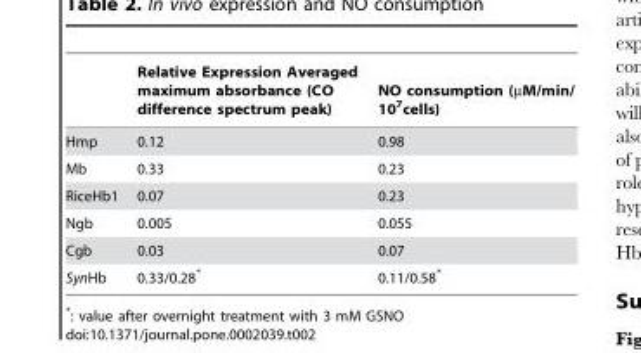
<table><thead><tr><td></td><td>Relative Expression Averaged maximum absorbance (CO difference spectrum peak)</td><td>NO consumption (µM/min/ 10<sup>7</sup>cells)</td></tr></thead><tbody><tr><td>Hmp</td><td>0.12</td><td>0.98</td></tr><tr><td>Mb</td><td>0.33</td><td>0.23</td></tr><tr><td>RiceHb1</td><td>0.07</td><td>0.23</td></tr><tr><td>Ngb</td><td>0.005</td><td>0.055</td></tr><tr><td>Cgb</td><td>0.03</td><td>0.07</td></tr><tr><td>SynHb</td><td>0.33/0.28*</td><td>0.11/0.58*</td></tr></tbody></table>